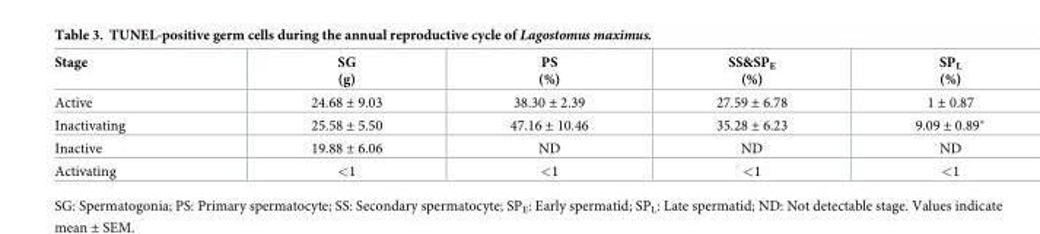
<table><thead><tr><td>Stage</td><td>SG (g)</td><td>PS (%)</td><td>SS&amp;SP<sub>E</sub> (%)</td><td>SP<sub>L</sub> (%)</td></tr></thead><tbody><tr><td>Active</td><td>24.68 ± 9.03</td><td>38.30 ± 2.39</td><td>27.59 ± 6.78</td><td>1 ± 0.87</td></tr><tr><td>Inactivating</td><td>25.58 ± 5.50</td><td>47.16 ± 10.46</td><td>35.28 ± 6.23</td><td>9.09 ± 0.89*</td></tr><tr><td>Inactive</td><td>19.88 ± 6.06</td><td>ND</td><td>ND</td><td>ND</td></tr><tr><td>Activating</td><td>&lt;1</td><td>&lt;1</td><td>&lt;1</td><td>&lt;1</td></tr></tbody></table>